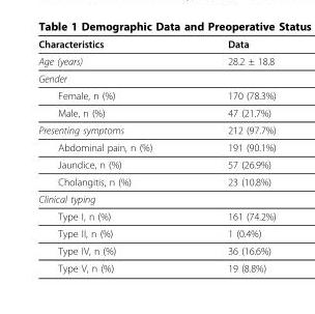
<table><thead><tr><td>Characteristics</td><td>Data</td></tr></thead><tbody><tr><td>Age (years)</td><td>28.2 ± 18.8</td></tr><tr><td colspan="2">Gender</td></tr><tr><td>Female, n (%)</td><td>170 (78.3%)</td></tr><tr><td>Male, n (%)</td><td>47 (21.7%)</td></tr><tr><td>Presenting symptoms</td><td>212 (97.7%)</td></tr><tr><td>Abdominal pain, n (%)</td><td>191 (90.1%)</td></tr><tr><td>Jaundice, n (%)</td><td>57 (26.9%)</td></tr><tr><td>Cholangitis, n (%)</td><td>23 (10.8%)</td></tr><tr><td colspan="2">Clinical typing</td></tr><tr><td>Type I, n (%)</td><td>161 (74.2%)</td></tr><tr><td>Type II, n (%)</td><td>1 (0.4%)</td></tr><tr><td>Type IV, n (%)</td><td>36 (16.6%)</td></tr><tr><td>Type V, n (%)</td><td>19 (8.8%)</td></tr></tbody></table>